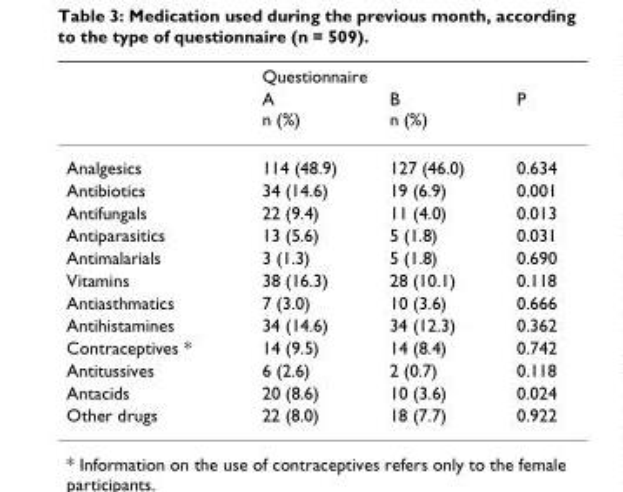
<table><thead><tr><td rowspan="2"></td><td colspan="2">Questionnaire</td><td rowspan="2">P</td></tr><tr><td>A n (%)</td><td>B n (%)</td></tr></thead><tbody><tr><td>Analgesics</td><td>114 (48.9)</td><td>127 (46.0)</td><td>0.634</td></tr><tr><td>Antibiotics</td><td>34 (14.6)</td><td>19 (6.9)</td><td>0.001</td></tr><tr><td>Antifungals</td><td>22 (9.4)</td><td>11 (4.0)</td><td>0.013</td></tr><tr><td>Antiparasitics</td><td>13 (5.6)</td><td>5 (1.8)</td><td>0.031</td></tr><tr><td>Antimalarials</td><td>3 (1.3)</td><td>5 (1.8)</td><td>0.690</td></tr><tr><td>Vitamins</td><td>38 (16.3)</td><td>28 (10.1)</td><td>0.118</td></tr><tr><td>Antiasthmatics</td><td>7 (3.0)</td><td>10 (3.6)</td><td>0.666</td></tr><tr><td>Antihistamines</td><td>34 (14.6)</td><td>34 (12.3)</td><td>0.362</td></tr><tr><td>Contraceptives *</td><td>14 (9.5)</td><td>14 (8.4)</td><td>0.742</td></tr><tr><td>Antitussives</td><td>6 (2.6)</td><td>2 (0.7)</td><td>0.118</td></tr><tr><td>Antacids</td><td>20 (8.6)</td><td>10 (3.6)</td><td>0.024</td></tr><tr><td>Other drugs</td><td>22 (8.0)</td><td>18 (7.7)</td><td>0.922</td></tr></tbody></table>